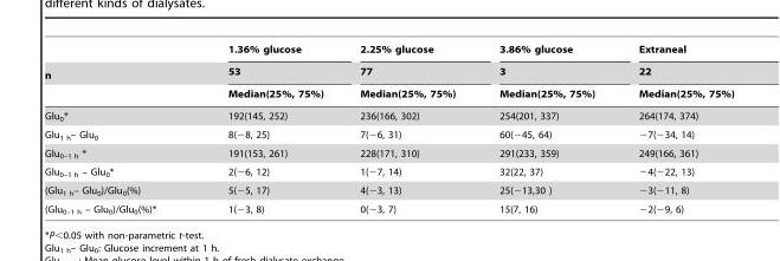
<table><thead><tr><td rowspan="3">n</td><td rowspan="3">1.36% glucose 53 Median(25%, 75%)</td><td rowspan="3">2.25% glucose 77 Median(25%, 75%)</td><td rowspan="3">3.86% glucose 3 Median(25%, 75%)</td><td rowspan="3">Extraneal 22 Median(25%, 75%)</td></tr><tr></tr><tr></tr></thead><tbody><tr><td>Glu<sub>0</sub>*</td><td>192(145, 252)</td><td>236(166, 302)</td><td>254(201, 337)</td><td>264(174, 374)</td></tr><tr><td>Glu<sub>1 h</sub>– Glu<sub>0</sub></td><td>8(−8, 25)</td><td>7(−6, 31)</td><td>60(−45, 64)</td><td>−7(−34, 14)</td></tr><tr><td>Glu<sub>0–1 h</sub> *</td><td>191(153, 261)</td><td>228(171, 310)</td><td>291(233, 359)</td><td>249(166, 361)</td></tr><tr><td>Glu<sub>0–1 h</sub> – Glu<sub>0</sub>*</td><td>2(−6, 12)</td><td>1(−7, 14)</td><td>32(22, 37)</td><td>−4(−22, 13)</td></tr><tr><td>(Glu<sub>1 h</sub>– Glu<sub>0</sub>)/Glu<sub>0</sub>(%)</td><td>5(−5, 17)</td><td>4(−3, 13)</td><td>25(−13,30 )</td><td>−3(−11, 8)</td></tr><tr><td>(Glu<sub>0–1 h</sub> – Glu<sub>0</sub>)/Glu<sub>0</sub>(%)*</td><td>1(−3, 8)</td><td>0(−3, 7)</td><td>15(7, 16)</td><td>−2(−9, 6)</td></tr></tbody></table>